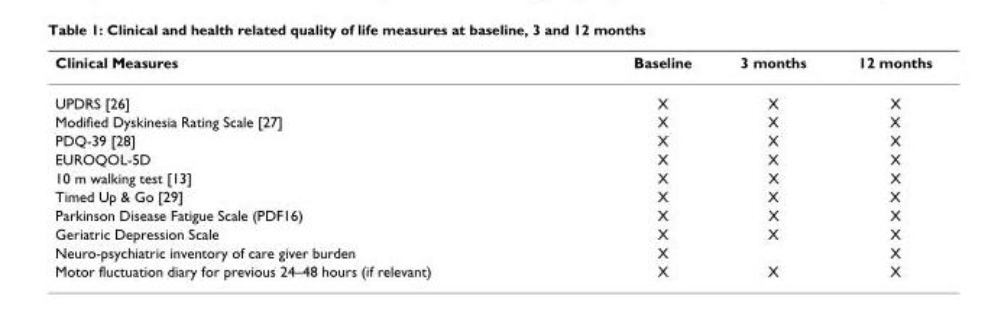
<table><thead><tr><td>Clinical Measures</td><td>Baseline</td><td>3 months</td><td>12 months</td></tr></thead><tbody><tr><td>UPDRS [26]</td><td>X</td><td>X</td><td>X</td></tr><tr><td>Modified Dyskinesia Rating Scale [27]</td><td>X</td><td>X</td><td>X</td></tr><tr><td>PDQ-39 [28]</td><td>X</td><td>X</td><td>X</td></tr><tr><td>EUROQOL-5D</td><td>X</td><td>X</td><td>X</td></tr><tr><td>10 m walking test [13]</td><td>X</td><td>X</td><td>X</td></tr><tr><td>Timed Up &amp; Go [29]</td><td>X</td><td>X</td><td>X</td></tr><tr><td>Parkinson Disease Fatigue Scale (PDF16)</td><td>X</td><td>X</td><td>X</td></tr><tr><td>Geriatric Depression Scale</td><td>X</td><td>X</td><td>X</td></tr><tr><td>Neuro-psychiatric inventory of care giver burden</td><td>X</td><td></td><td>X</td></tr><tr><td>Motor fluctuation diary for previous 24–48 hours (if relevant)</td><td>X</td><td>X</td><td>X</td></tr></tbody></table>